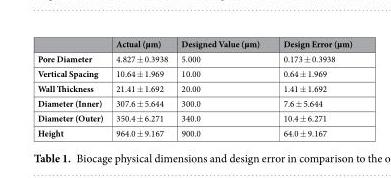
<table><thead><tr><td></td><td>Actual (µm)</td><td>Designed Value (µm)</td><td>Design Error (µm)</td></tr></thead><tbody><tr><td>Pore Diameter</td><td>4.827 ± 0.3938</td><td>5.000</td><td>0.173 ± 0.3938</td></tr><tr><td>Vertical Spacing</td><td>10.64 ± 1.969</td><td>10.00</td><td>0.64 ± 1.969</td></tr><tr><td>Wall Thickness</td><td>21.41 ± 1.692</td><td>20.00</td><td>1.41 ± 1.692</td></tr><tr><td>Diameter (Inner)</td><td>307.6 ± 5.644</td><td>300.0</td><td>7.6 ± 5.644</td></tr><tr><td>Diameter (Outer)</td><td>350.4 ± 6.271</td><td>340.0</td><td>10.4 ± 6.271</td></tr><tr><td>Height</td><td>964.0 ± 9.167</td><td>900.0</td><td>64.0 ± 9.167</td></tr></tbody></table>